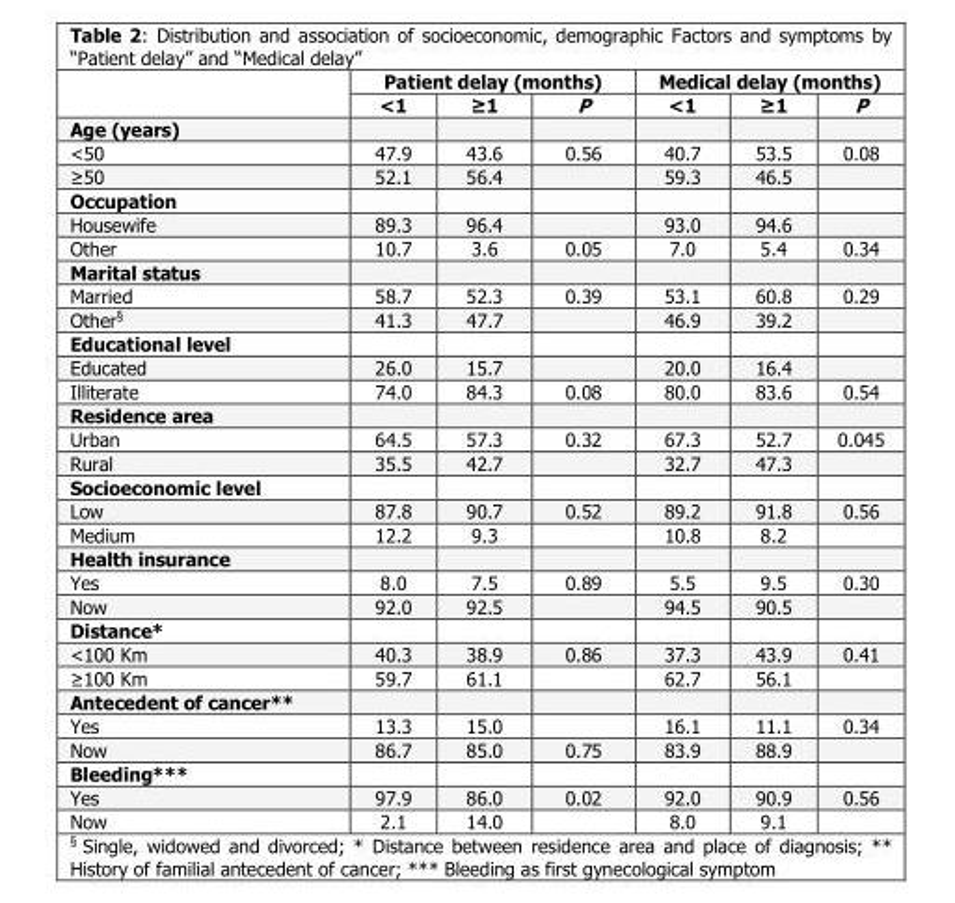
<table><thead><tr><td rowspan="2"></td><td colspan="3">Patient delay (months)</td><td colspan="3">Medical delay (months)</td></tr><tr><td>&lt;1</td><td>≥1</td><td>P</td><td>&lt;1</td><td>≥1</td><td>P</td></tr></thead><tbody><tr><td colspan="7">Age (years)</td></tr><tr><td>&lt;50</td><td>47.9</td><td>43.6</td><td>0.56</td><td>40.7</td><td>53.5</td><td>0.08</td></tr><tr><td>≥50</td><td>52.1</td><td>56.4</td><td></td><td>59.3</td><td>46.5</td><td></td></tr><tr><td colspan="7">Occupation</td></tr><tr><td>Housewife</td><td>89.3</td><td>96.4</td><td></td><td>93.0</td><td>94.6</td><td></td></tr><tr><td>Other</td><td>10.7</td><td>3.6</td><td>0.05</td><td>7.0</td><td>5.4</td><td>0.34</td></tr><tr><td colspan="7">Marital status</td></tr><tr><td>Married</td><td>58.7</td><td>52.3</td><td>0.39</td><td>53.1</td><td>60.8</td><td>0.29</td></tr><tr><td>Other§</td><td>41.3</td><td>47.7</td><td></td><td>46.9</td><td>39.2</td><td></td></tr><tr><td colspan="7">Educational level</td></tr><tr><td>Educated</td><td>26.0</td><td>15.7</td><td></td><td>20.0</td><td>16.4</td><td></td></tr><tr><td>Illiterate</td><td>74.0</td><td>84.3</td><td>0.08</td><td>80.0</td><td>83.6</td><td>0.54</td></tr><tr><td colspan="7">Residence area</td></tr><tr><td>Urban</td><td>64.5</td><td>57.3</td><td>0.32</td><td>67.3</td><td>52.7</td><td>0.045</td></tr><tr><td>Rural</td><td>35.5</td><td>42.7</td><td></td><td>32.7</td><td>47.3</td><td></td></tr><tr><td colspan="7">Socioeconomic level</td></tr><tr><td>Low</td><td>87.8</td><td>90.7</td><td>0.52</td><td>89.2</td><td>91.8</td><td>0.56</td></tr><tr><td>Medium</td><td>12.2</td><td>9.3</td><td></td><td>10.8</td><td>8.2</td><td></td></tr><tr><td colspan="7">Health insurance</td></tr><tr><td>Yes</td><td>8.0</td><td>7.5</td><td>0.89</td><td>5.5</td><td>9.5</td><td>0.30</td></tr><tr><td>Now</td><td>92.0</td><td>92.5</td><td></td><td>94.5</td><td>90.5</td><td></td></tr><tr><td colspan="7">Distance*</td></tr><tr><td>&lt;100 Km</td><td>40.3</td><td>38.9</td><td>0.86</td><td>37.3</td><td>43.9</td><td>0.41</td></tr><tr><td>≥100 Km</td><td>59.7</td><td>61.1</td><td></td><td>62.7</td><td>56.1</td><td></td></tr><tr><td colspan="7">Antecedent of cancer**</td></tr><tr><td>Yes</td><td>13.3</td><td>15.0</td><td></td><td>16.1</td><td>11.1</td><td>0.34</td></tr><tr><td>Now</td><td>86.7</td><td>85.0</td><td>0.75</td><td>83.9</td><td>88.9</td><td></td></tr><tr><td colspan="7">Bleeding***</td></tr><tr><td>Yes</td><td>97.9</td><td>86.0</td><td>0.02</td><td>92.0</td><td>90.9</td><td>0.56</td></tr><tr><td>Now</td><td>2.1</td><td>14.0</td><td></td><td>8.0</td><td>9.1</td><td></td></tr></tbody></table>